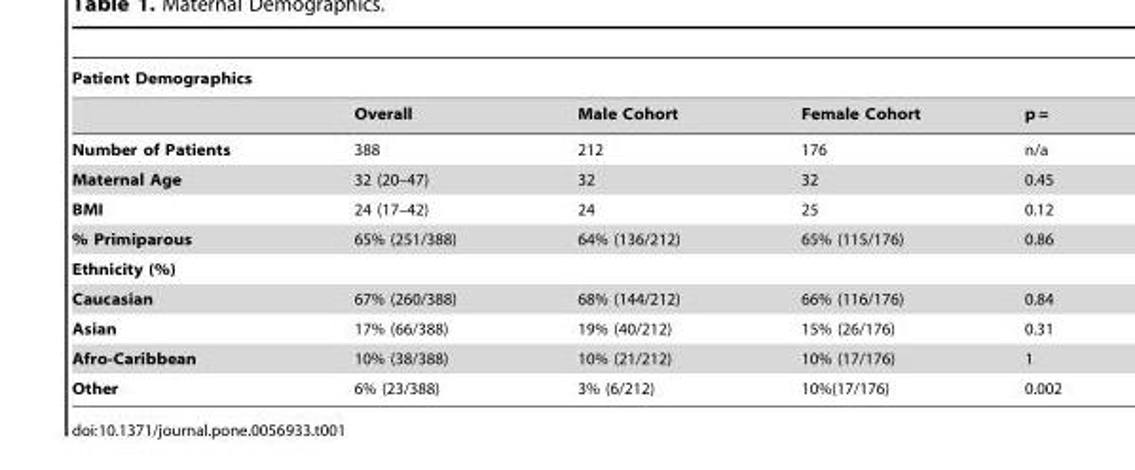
<table><thead><tr><td colspan="5">Patient Demographics</td></tr><tr><td></td><td>Overall</td><td>Male Cohort</td><td>Female Cohort</td><td>p =</td></tr></thead><tbody><tr><td>Number of Patients</td><td>388</td><td>212</td><td>176</td><td>n/a</td></tr><tr><td>Maternal Age</td><td>32 (20–47)</td><td>32</td><td>32</td><td>0.45</td></tr><tr><td>BMI</td><td>24 (17–42)</td><td>24</td><td>25</td><td>0.12</td></tr><tr><td>% Primiparous</td><td>65% (251/388)</td><td>64% (136/212)</td><td>65% (115/176)</td><td>0.86</td></tr><tr><td colspan="5">Ethnicity (%)</td></tr><tr><td>Caucasian</td><td>67% (260/388)</td><td>68% (144/212)</td><td>66% (116/176)</td><td>0.84</td></tr><tr><td>Asian</td><td>17% (66/388)</td><td>19% (40/212)</td><td>15% (26/176)</td><td>0.31</td></tr><tr><td>Afro-Caribbean</td><td>10% (38/388)</td><td>10% (21/212)</td><td>10% (17/176)</td><td>1</td></tr><tr><td>Other</td><td>6% (23/388)</td><td>3% (6/212)</td><td>10%(17/176)</td><td>0.002</td></tr></tbody></table>